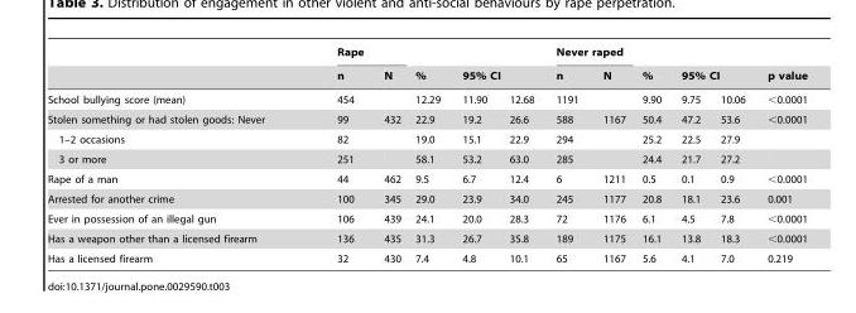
<table><thead><tr><td rowspan="2"></td><td colspan="2">Rape</td><td rowspan="2">%</td><td></td><td></td><td colspan="2">Never raped</td><td rowspan="2">%</td><td></td><td></td><td rowspan="2">p value</td></tr><tr><td>n</td><td>N</td><td colspan="2">95% CI</td><td>n</td><td>N</td><td colspan="2">95% CI</td></tr></thead><tbody><tr><td>School bullying score (mean)</td><td>454</td><td></td><td>12.29</td><td>11.90</td><td>12.68</td><td>1191</td><td></td><td>9.90</td><td>9.75</td><td>10.06</td><td>&lt;0.0001</td></tr><tr><td>Stolen something or had stolen goods: Never</td><td>99</td><td>432</td><td>22.9</td><td>19.2</td><td>26.6</td><td>588</td><td>1167</td><td>50.4</td><td>47.2</td><td>53.6</td><td>&lt;0.0001</td></tr><tr><td>1–2 occasions</td><td>82</td><td></td><td>19.0</td><td>15.1</td><td>22.9</td><td>294</td><td></td><td>25.2</td><td>22.5</td><td>27.9</td><td></td></tr><tr><td>3 or more</td><td>251</td><td></td><td>58.1</td><td>53.2</td><td>63.0</td><td>285</td><td></td><td>24.4</td><td>21.7</td><td>27.2</td><td></td></tr><tr><td>Rape of a man</td><td>44</td><td>462</td><td>9.5</td><td>6.7</td><td>12.4</td><td>6</td><td>1211</td><td>0.5</td><td>0.1</td><td>0.9</td><td>&lt;0.0001</td></tr><tr><td>Arrested for another crime</td><td>100</td><td>345</td><td>29.0</td><td>23.9</td><td>34.0</td><td>245</td><td>1177</td><td>20.8</td><td>18.1</td><td>23.6</td><td>0.001</td></tr><tr><td>Ever in possession of an illegal gun</td><td>106</td><td>439</td><td>24.1</td><td>20.0</td><td>28.3</td><td>72</td><td>1176</td><td>6.1</td><td>4.5</td><td>7.8</td><td>&lt;0.0001</td></tr><tr><td>Has a weapon other than a licensed firearm</td><td>136</td><td>435</td><td>31.3</td><td>26.7</td><td>35.8</td><td>189</td><td>1175</td><td>16.1</td><td>13.8</td><td>18.3</td><td>&lt;0.0001</td></tr><tr><td>Has a licensed firearm</td><td>32</td><td>430</td><td>7.4</td><td>4.8</td><td>10.1</td><td>65</td><td>1167</td><td>5.6</td><td>4.1</td><td>7.0</td><td>0.219</td></tr></tbody></table>